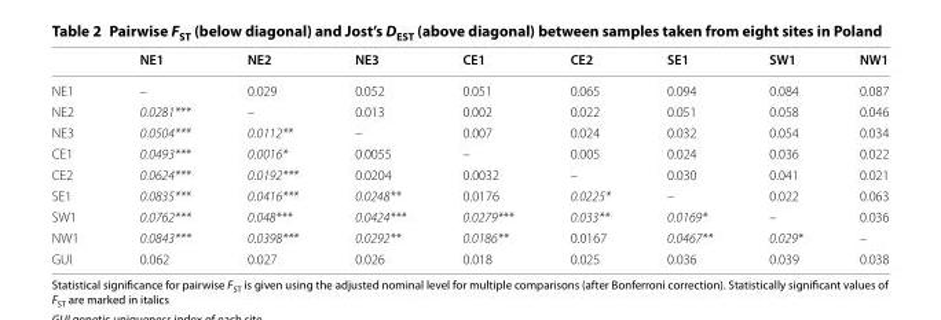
<table><thead><tr><td></td><td>NE1</td><td>NE2</td><td>NE3</td><td>CE1</td><td>CE2</td><td>SE1</td><td>SW1</td><td>NW1</td></tr></thead><tbody><tr><td>NE1</td><td>–</td><td>0.029</td><td>0.052</td><td>0.051</td><td>0.065</td><td>0.094</td><td>0.084</td><td>0.087</td></tr><tr><td>NE2</td><td>0.0281***</td><td>–</td><td>0.013</td><td>0.002</td><td>0.022</td><td>0.051</td><td>0.058</td><td>0.046</td></tr><tr><td>NE3</td><td>0.0504***</td><td>0.0112**</td><td>–</td><td>0.007</td><td>0.024</td><td>0.032</td><td>0.054</td><td>0.034</td></tr><tr><td>CE1</td><td>0.0493***</td><td>0.0016*</td><td>0.0055</td><td>–</td><td>0.005</td><td>0.024</td><td>0.036</td><td>0.022</td></tr><tr><td>CE2</td><td>0.0624***</td><td>0.0192***</td><td>0.0204</td><td>0.0032</td><td>–</td><td>0.030</td><td>0.041</td><td>0.021</td></tr><tr><td>SE1</td><td>0.0835***</td><td>0.0416***</td><td>0.0248**</td><td>0.0176</td><td>0.0225*</td><td>–</td><td>0.022</td><td>0.063</td></tr><tr><td>SW1</td><td>0.0762***</td><td>0.048***</td><td>0.0424***</td><td>0.0279***</td><td>0.033**</td><td>0.0169*</td><td>–</td><td>0.036</td></tr><tr><td>NW1</td><td>0.0843***</td><td>0.0398***</td><td>0.0292**</td><td>0.0186**</td><td>0.0167</td><td>0.0467**</td><td>0.029*</td><td>–</td></tr><tr><td>GUI</td><td>0.062</td><td>0.027</td><td>0.026</td><td>0.018</td><td>0.025</td><td>0.036</td><td>0.039</td><td>0.038</td></tr></tbody></table>